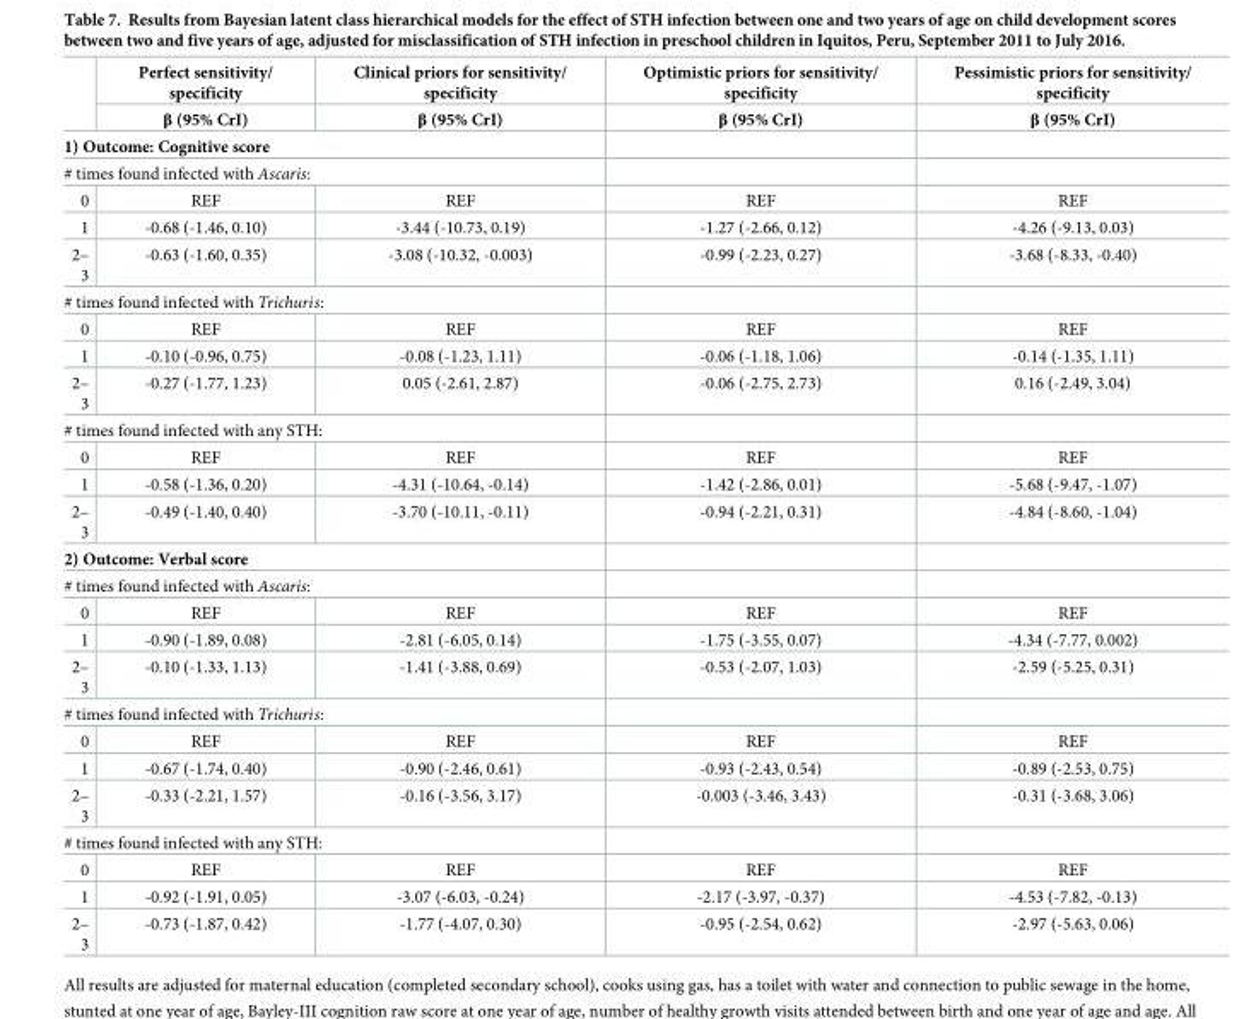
<table><thead><tr><td rowspan="2"></td><td rowspan="2">Perfect sensitivity/ specificity β (95% CrI)</td><td rowspan="2">Clinical priors for sensitivity/ specificity β (95% CrI)</td><td rowspan="2">Optimistic priors for sensitivity/ specificity β (95% CrI)</td><td rowspan="2">Pessimistic priors for sensitivity/ specificity β (95% CrI)</td></tr><tr></tr></thead><tbody><tr><td colspan="5">1) Outcome: Cognitive score</td></tr><tr><td colspan="5"># times found infected with Ascaris:</td></tr><tr><td>0</td><td>REF</td><td>REF</td><td>REF</td><td>REF</td></tr><tr><td>1</td><td>-0.68 (-1.46, 0.10)</td><td>-3.44 (-10.73, 0.19)</td><td>-1.27 (-2.66, 0.12)</td><td>-4.26 (-9.13, 0.03)</td></tr><tr><td>2– 3</td><td>-0.63 (-1.60, 0.35)</td><td>-3.08 (-10.32, -0.003)</td><td>-0.99 (-2.23, 0.27)</td><td>-3.68 (-8.33, -0.40)</td></tr><tr><td colspan="5"># times found infected with Trichuris:</td></tr><tr><td>0</td><td>REF</td><td>REF</td><td>REF</td><td>REF</td></tr><tr><td>1</td><td>-0.10 (-0.96, 0.75)</td><td>-0.08 (-1.23, 1.11)</td><td>-0.06 (-1.18, 1.06)</td><td>-0.14 (-1.35, 1.11)</td></tr><tr><td>2– 3</td><td>-0.27 (-1.77, 1.23)</td><td>0.05 (-2.61, 2.87)</td><td>-0.06 (-2.75, 2.73)</td><td>0.16 (-2.49, 3.04)</td></tr><tr><td colspan="5"># times found infected with any STH:</td></tr><tr><td>0</td><td>REF</td><td>REF</td><td>REF</td><td>REF</td></tr><tr><td>1</td><td>-0.58 (-1.36, 0.20)</td><td>-4.31 (-10.64, -0.14)</td><td>-1.42 (-2.86, 0.01)</td><td>-5.68 (-9.47, -1.07)</td></tr><tr><td>2– 3</td><td>-0.49 (-1.40, 0.40)</td><td>-3.70 (-10.11, -0.11)</td><td>-0.94 (-2.21, 0.31)</td><td>-4.84 (-8.60, -1.04)</td></tr><tr><td colspan="5">2) Outcome: Verbal score</td></tr><tr><td colspan="5"># times found infected with Ascaris:</td></tr><tr><td>0</td><td>REF</td><td>REF</td><td>REF</td><td>REF</td></tr><tr><td>1</td><td>-0.90 (-1.89, 0.08)</td><td>-2.81 (-6.05, 0.14)</td><td>-1.75 (-3.55, 0.07)</td><td>-4.34 (-7.77, 0.002)</td></tr><tr><td>2– 3</td><td>-0.10 (-1.33, 1.13)</td><td>-1.41 (-3.88, 0.69)</td><td>-0.53 (-2.07, 1.03)</td><td>-2.59 (-5.25, 0.31)</td></tr><tr><td colspan="5"># times found infected with Trichuris:</td></tr><tr><td>0</td><td>REF</td><td>REF</td><td>REF</td><td>REF</td></tr><tr><td>1</td><td>-0.67 (-1.74, 0.40)</td><td>-0.90 (-2.46, 0.61)</td><td>-0.93 (-2.43, 0.54)</td><td>-0.89 (-2.53, 0.75)</td></tr><tr><td>2– 3</td><td>-0.33 (-2.21, 1.57)</td><td>-0.16 (-3.56, 3.17)</td><td>-0.003 (-3.46, 3.43)</td><td>-0.31 (-3.68, 3.06)</td></tr><tr><td colspan="5"># times found infected with any STH:</td></tr><tr><td>0</td><td>REF</td><td>REF</td><td>REF</td><td>REF</td></tr><tr><td>1</td><td>-0.92 (-1.91, 0.05)</td><td>-3.07 (-6.03, -0.24)</td><td>-2.17 (-3.97, -0.37)</td><td>-4.53 (-7.82, -0.13)</td></tr><tr><td>2– 3</td><td>-0.73 (-1.87, 0.42)</td><td>-1.77 (-4.07, 0.30)</td><td>-0.95 (-2.54, 0.62)</td><td>-2.97 (-5.63, 0.06)</td></tr></tbody></table>